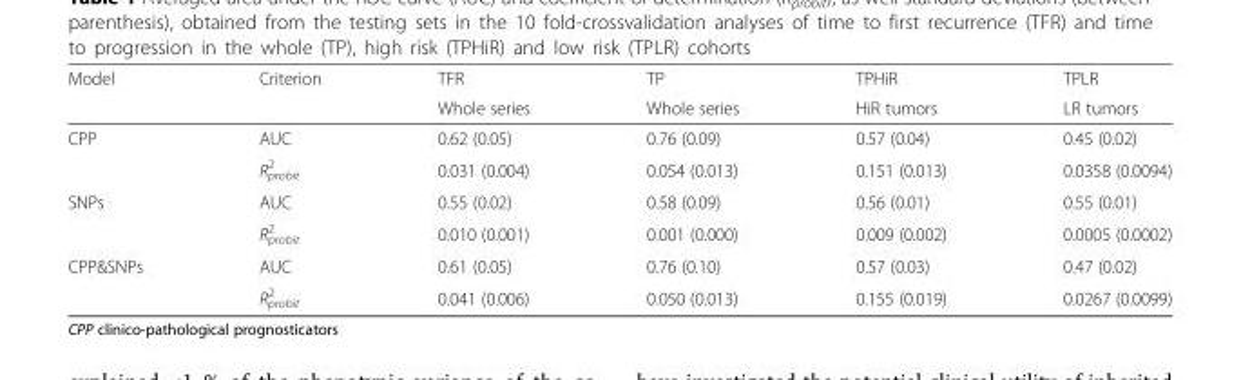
<table><thead><tr><td rowspan="2">Model</td><td rowspan="2">Criterion</td><td rowspan="2">TFR Whole series</td><td rowspan="2">TP Whole series</td><td rowspan="2">TPHiR HiR tumors</td><td rowspan="2">TPLR LR tumors</td></tr><tr></tr></thead><tbody><tr><td rowspan="2">CPP</td><td>AUC</td><td>0.62 (0.05)</td><td>0.76 (0.09)</td><td>0.57 (0.04)</td><td>0.45 (0.02)</td></tr><tr><td>R<sub>probit</sub> <sup>2</sup></td><td>0.031 (0.004)</td><td>0.054 (0.013)</td><td>0.151 (0.013)</td><td>0.0358 (0.0094)</td></tr><tr><td rowspan="2">SNPs</td><td>AUC</td><td>0.55 (0.02)</td><td>0.58 (0.09)</td><td>0.56 (0.01)</td><td>0.55 (0.01)</td></tr><tr><td>R<sub>probit</sub> <sup>2</sup></td><td>0.010 (0.001)</td><td>0.001 (0.000)</td><td>0.009 (0.002)</td><td>0.0005 (0.0002)</td></tr><tr><td rowspan="2">CPP&amp;SNPs</td><td>AUC</td><td>0.61 (0.05)</td><td>0.76 (0.10)</td><td>0.57 (0.03)</td><td>0.47 (0.02)</td></tr><tr><td>R<sub>probit</sub> <sup>2</sup></td><td>0.041 (0.006)</td><td>0.050 (0.013)</td><td>0.155 (0.019)</td><td>0.0267 (0.0099)</td></tr></tbody></table>